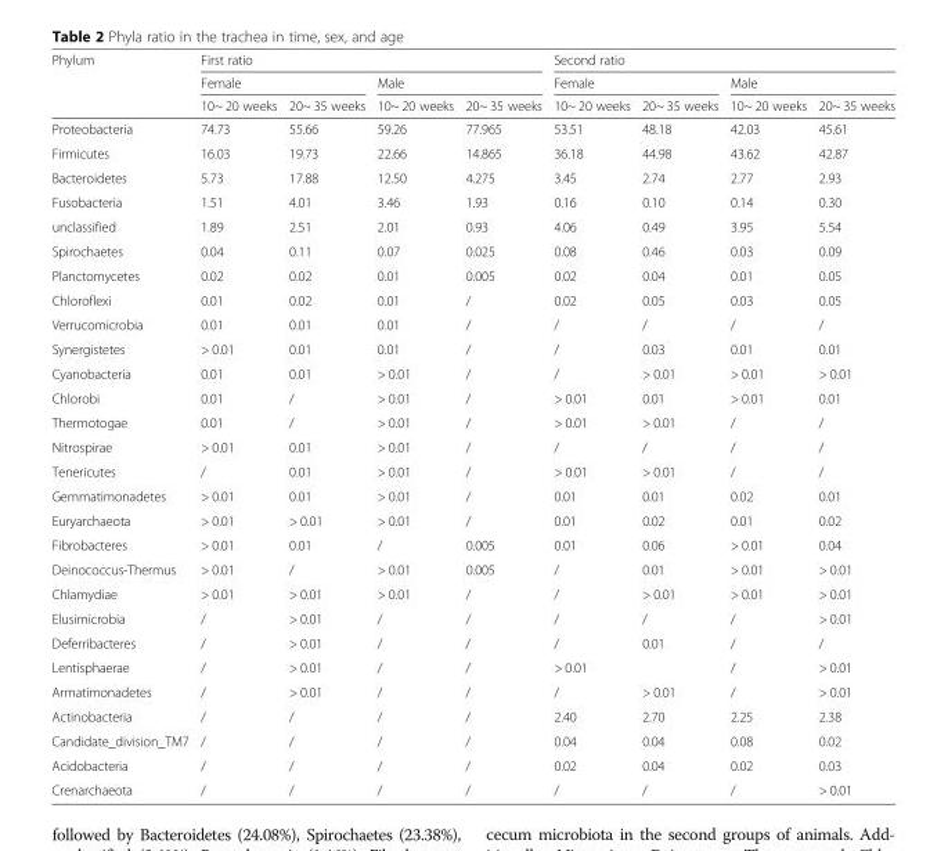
<table><thead><tr><td rowspan="3">Phylum</td><td colspan="4">First ratio</td><td colspan="4">Second ratio</td></tr><tr><td colspan="2">Female</td><td colspan="2">Male</td><td colspan="2">Female</td><td colspan="2">Male</td></tr><tr><td>10~ 20 weeks</td><td>20~ 35 weeks</td><td>10~ 20 weeks</td><td>20~ 35 weeks</td><td>10~ 20 weeks</td><td>20~ 35 weeks</td><td>10~ 20 weeks</td><td>20~ 35 weeks</td></tr></thead><tbody><tr><td>Proteobacteria</td><td>74.73</td><td>55.66</td><td>59.26</td><td>77.965</td><td>53.51</td><td>48.18</td><td>42.03</td><td>45.61</td></tr><tr><td>Firmicutes</td><td>16.03</td><td>19.73</td><td>22.66</td><td>14.865</td><td>36.18</td><td>44.98</td><td>43.62</td><td>42.87</td></tr><tr><td>Bacteroidetes</td><td>5.73</td><td>17.88</td><td>12.50</td><td>4.275</td><td>3.45</td><td>2.74</td><td>2.77</td><td>2.93</td></tr><tr><td>Fusobacteria</td><td>1.51</td><td>4.01</td><td>3.46</td><td>1.93</td><td>0.16</td><td>0.10</td><td>0.14</td><td>0.30</td></tr><tr><td>unclassified</td><td>1.89</td><td>2.51</td><td>2.01</td><td>0.93</td><td>4.06</td><td>0.49</td><td>3.95</td><td>5.54</td></tr><tr><td>Spirochaetes</td><td>0.04</td><td>0.11</td><td>0.07</td><td>0.025</td><td>0.08</td><td>0.46</td><td>0.03</td><td>0.09</td></tr><tr><td>Planctomycetes</td><td>0.02</td><td>0.02</td><td>0.01</td><td>0.005</td><td>0.02</td><td>0.04</td><td>0.01</td><td>0.05</td></tr><tr><td>Chloroflexi</td><td>0.01</td><td>0.02</td><td>0.01</td><td>/</td><td>0.02</td><td>0.05</td><td>0.03</td><td>0.05</td></tr><tr><td>Verrucomicrobia</td><td>0.01</td><td>0.01</td><td>0.01</td><td>/</td><td>/</td><td>/</td><td>/</td><td>/</td></tr><tr><td>Synergistetes</td><td>&gt; 0.01</td><td>0.01</td><td>0.01</td><td>/</td><td>/</td><td>0.03</td><td>0.01</td><td>0.01</td></tr><tr><td>Cyanobacteria</td><td>0.01</td><td>0.01</td><td>&gt; 0.01</td><td>/</td><td>/</td><td>&gt; 0.01</td><td>&gt; 0.01</td><td>&gt; 0.01</td></tr><tr><td>Chlorobi</td><td>0.01</td><td>/</td><td>&gt; 0.01</td><td>/</td><td>&gt; 0.01</td><td>0.01</td><td>&gt; 0.01</td><td>0.01</td></tr><tr><td>Thermotogae</td><td>0.01</td><td>/</td><td>&gt; 0.01</td><td>/</td><td>&gt; 0.01</td><td>&gt; 0.01</td><td>/</td><td>/</td></tr><tr><td>Nitrospirae</td><td>&gt; 0.01</td><td>0.01</td><td>&gt; 0.01</td><td>/</td><td>/</td><td>/</td><td>/</td><td>/</td></tr><tr><td>Tenericutes</td><td>/</td><td>0.01</td><td>&gt; 0.01</td><td>/</td><td>&gt; 0.01</td><td>&gt; 0.01</td><td>/</td><td>/</td></tr><tr><td>Gemmatimonadetes</td><td>&gt; 0.01</td><td>0.01</td><td>&gt; 0.01</td><td>/</td><td>0.01</td><td>0.01</td><td>0.02</td><td>0.01</td></tr><tr><td>Euryarchaeota</td><td>&gt; 0.01</td><td>&gt; 0.01</td><td>&gt; 0.01</td><td>/</td><td>0.01</td><td>0.02</td><td>0.01</td><td>0.02</td></tr><tr><td>Fibrobacteres</td><td>&gt; 0.01</td><td>0.01</td><td>/</td><td>0.005</td><td>0.01</td><td>0.06</td><td>&gt; 0.01</td><td>0.04</td></tr><tr><td>Deinococcus-Thermus</td><td>&gt; 0.01</td><td>/</td><td>&gt; 0.01</td><td>0.005</td><td>/</td><td>0.01</td><td>&gt; 0.01</td><td>&gt; 0.01</td></tr><tr><td>Chlamydiae</td><td>&gt; 0.01</td><td>&gt; 0.01</td><td>&gt; 0.01</td><td>/</td><td>/</td><td>&gt; 0.01</td><td>&gt; 0.01</td><td>&gt; 0.01</td></tr><tr><td>Elusimicrobia</td><td>/</td><td>&gt; 0.01</td><td>/</td><td>/</td><td>/</td><td>/</td><td>/</td><td>&gt; 0.01</td></tr><tr><td>Deferribacteres</td><td>/</td><td>&gt; 0.01</td><td>/</td><td>/</td><td>/</td><td>0.01</td><td>/</td><td>/</td></tr><tr><td>Lentisphaerae</td><td>/</td><td>&gt; 0.01</td><td>/</td><td>/</td><td>&gt; 0.01</td><td></td><td>/</td><td>&gt; 0.01</td></tr><tr><td>Armatimonadetes</td><td>/</td><td>&gt; 0.01</td><td>/</td><td>/</td><td>/</td><td>&gt; 0.01</td><td>/</td><td>&gt; 0.01</td></tr><tr><td>Actinobacteria</td><td>/</td><td>/</td><td>/</td><td>/</td><td>2.40</td><td>2.70</td><td>2.25</td><td>2.38</td></tr><tr><td>Candidate_division_TM7</td><td>/</td><td>/</td><td>/</td><td>/</td><td>0.04</td><td>0.04</td><td>0.08</td><td>0.02</td></tr><tr><td>Acidobacteria</td><td>/</td><td>/</td><td>/</td><td>/</td><td>0.02</td><td>0.04</td><td>0.02</td><td>0.03</td></tr><tr><td>Crenarchaeota</td><td>/</td><td>/</td><td>/</td><td>/</td><td>/</td><td>/</td><td>/</td><td>&gt; 0.01</td></tr></tbody></table>